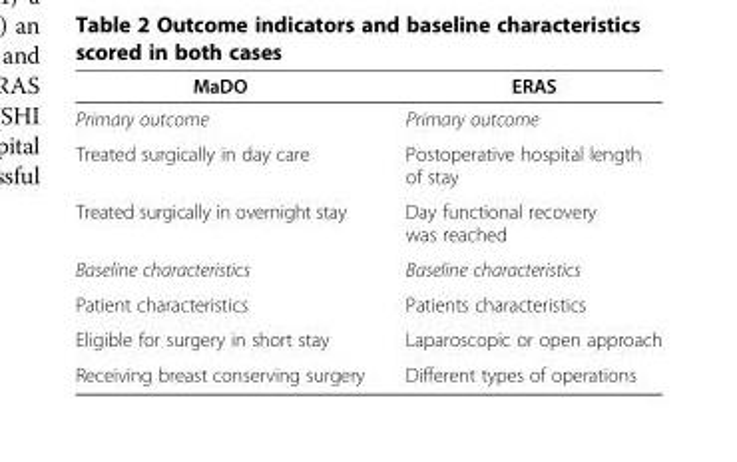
<table><thead><tr><td>MaDO</td><td>ERAS</td></tr></thead><tbody><tr><td>Primary outcome</td><td>Primary outcome</td></tr><tr><td>Treated surgically in day care</td><td>Postoperative hospital length of stay</td></tr><tr><td>Treated surgically in overnight stay</td><td>Day functional recovery was reached</td></tr><tr><td>Baseline characteristics</td><td>Baseline characteristics</td></tr><tr><td>Patient characteristics</td><td>Patients characteristics</td></tr><tr><td>Eligible for surgery in short stay</td><td>Laparoscopic or open approach</td></tr><tr><td>Receiving breast conserving surgery</td><td>Different types of operations</td></tr></tbody></table>